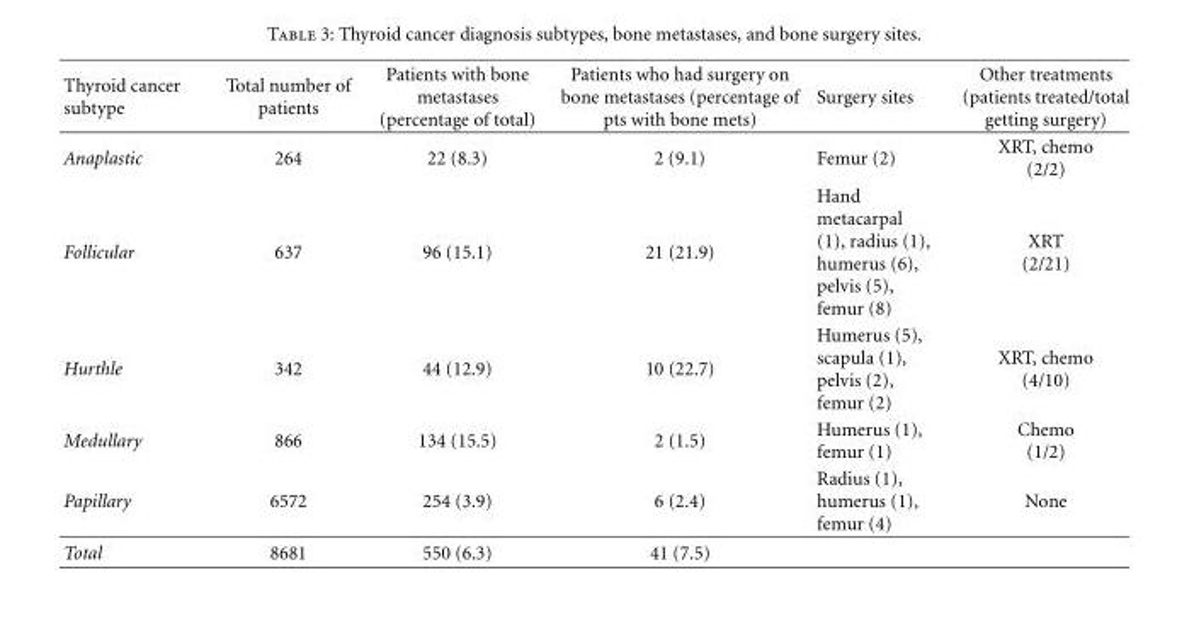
<table><thead><tr><td>Thyroid cancer subtype</td><td>Total number of patients</td><td>Patients with bone metastases (percentage of total)</td><td>Patients who had surgery on bone metastases (percentage of pts with bone mets)</td><td>Surgery sites</td><td>Other treatments (patients treated/total getting surgery)</td></tr></thead><tbody><tr><td>Anaplastic</td><td>264</td><td>22 (8.3)</td><td>2 (9.1)</td><td>Femur (2)</td><td>XRT, chemo (2/2)</td></tr><tr><td>Follicular</td><td>637</td><td>96 (15.1)</td><td>21 (21.9)</td><td>Hand metacarpal (1), radius (1), humerus (6), pelvis (5), femur (8)</td><td>XRT (2/21)</td></tr><tr><td>Hurthle</td><td>342</td><td>44 (12.9)</td><td>10 (22.7)</td><td>Humerus (5), scapula (1), pelvis (2), femur (2)</td><td>XRT, chemo (4/10)</td></tr><tr><td>Medullary</td><td>866</td><td>134 (15.5)</td><td>2 (1.5)</td><td>Humerus (1), femur (1)</td><td>Chemo (1/2)</td></tr><tr><td>Papillary</td><td>6572</td><td>254 (3.9)</td><td>6 (2.4)</td><td>Radius (1), humerus (1), femur (4)</td><td>None</td></tr><tr><td>Total</td><td>8681</td><td>550 (6.3)</td><td>41 (7.5)</td><td></td><td></td></tr></tbody></table>